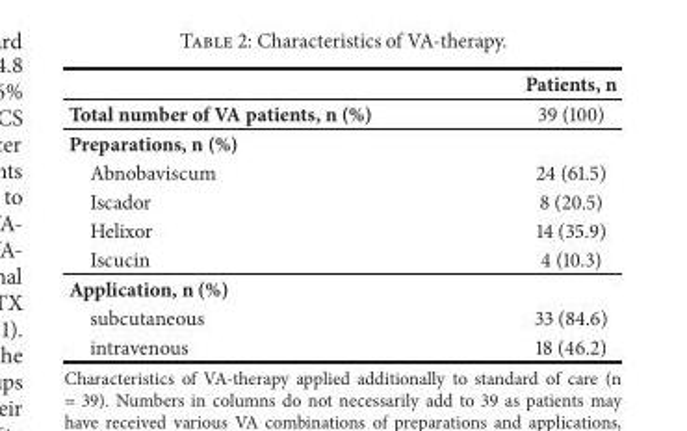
<table><thead><tr><td></td><td>Patients, n</td></tr></thead><tbody><tr><td>Total number of VA patients, n (%)</td><td>39 (100)</td></tr><tr><td colspan="2">Preparations, n (%)</td></tr><tr><td>Abnobaviscum</td><td>24 (61.5)</td></tr><tr><td>Iscador</td><td>8 (20.5)</td></tr><tr><td>Helixor</td><td>14 (35.9)</td></tr><tr><td>Iscucin</td><td>4 (10.3)</td></tr><tr><td colspan="2">Application, n (%)</td></tr><tr><td>subcutaneous</td><td>33 (84.6)</td></tr><tr><td>intravenous</td><td>18 (46.2)</td></tr></tbody></table>